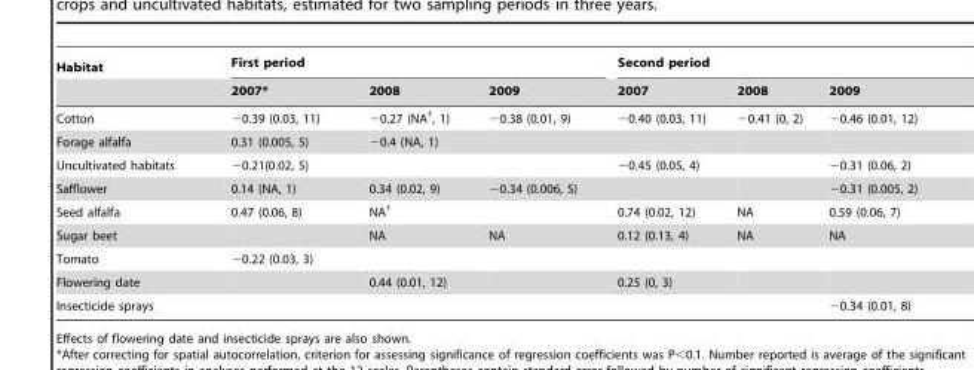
<table><thead><tr><td rowspan="2">Habitat</td><td colspan="3">First period</td><td colspan="3">Second period</td></tr><tr><td>2007*</td><td>2008</td><td>2009</td><td>2007</td><td>2008</td><td>2009</td></tr></thead><tbody><tr><td>Cotton</td><td>−0.39 (0.03, 11)</td><td>−0.27 (NA†, 1)</td><td>−0.38 (0.01, 9)</td><td>−0.40 (0.03, 11)</td><td>−0.41 (0, 2)</td><td>−0.46 (0.01, 12)</td></tr><tr><td>Forage alfalfa</td><td>0.31 (0.005, 5)</td><td>−0.4 (NA, 1)</td><td></td><td></td><td></td><td></td></tr><tr><td>Uncultivated habitats</td><td>−0.21(0.02, 5)</td><td></td><td></td><td>−0.45 (0.05, 4)</td><td></td><td>−0.31 (0.06, 2)</td></tr><tr><td>Safflower</td><td>0.14 (NA, 1)</td><td>0.34 (0.02, 9)</td><td>−0.34 (0.006, 5)</td><td></td><td></td><td>−0.31 (0.005, 2)</td></tr><tr><td>Seed alfalfa</td><td>0.47 (0.06, 8)</td><td>NA†</td><td></td><td>0.74 (0.02, 12)</td><td>NA</td><td>0.59 (0.06, 7)</td></tr><tr><td>Sugar beet</td><td></td><td>NA</td><td>NA</td><td>0.12 (0.13, 4)</td><td>NA</td><td>NA</td></tr><tr><td>Tomato</td><td>−0.22 (0.03, 3)</td><td></td><td></td><td></td><td></td><td></td></tr><tr><td>Flowering date</td><td></td><td>0.44 (0.01, 12)</td><td></td><td>0.25 (0, 3)</td><td></td><td></td></tr><tr><td>Insecticide sprays</td><td></td><td></td><td></td><td></td><td></td><td>−0.34 (0.01, 8)</td></tr></tbody></table>